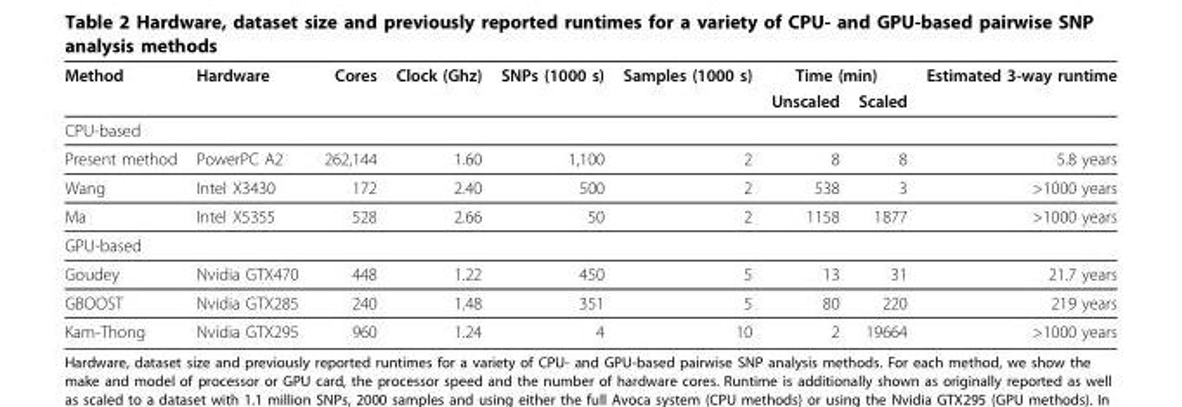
<table><thead><tr><td rowspan="2">Method</td><td rowspan="2">Hardware</td><td rowspan="2">Cores</td><td rowspan="2">Clock (Ghz)</td><td rowspan="2">SNPs (1000 s)</td><td rowspan="2">Samples (1000 s)</td><td colspan="2">Time (min)</td><td rowspan="2">Estimated 3-way runtime</td></tr><tr><td>Unscaled</td><td>Scaled</td></tr></thead><tbody><tr><td colspan="9">CPU-based</td></tr><tr><td>Present method</td><td>PowerPC A2</td><td>262,144</td><td>1.60</td><td>1,100</td><td>2</td><td>8</td><td>8</td><td>5.8 years</td></tr><tr><td>Wang</td><td>Intel X3430</td><td>172</td><td>2.40</td><td>500</td><td>2</td><td>538</td><td>3</td><td>&gt;1000 years</td></tr><tr><td>Ma</td><td>Intel X5355</td><td>528</td><td>2.66</td><td>50</td><td>2</td><td>1158</td><td>1877</td><td>&gt;1000 years</td></tr><tr><td colspan="9">GPU-based</td></tr><tr><td>Goudey</td><td>Nvidia GTX470</td><td>448</td><td>1.22</td><td>450</td><td>5</td><td>13</td><td>31</td><td>21.7 years</td></tr><tr><td>GBOOST</td><td>Nvidia GTX285</td><td>240</td><td>1.48</td><td>351</td><td>5</td><td>80</td><td>220</td><td>219 years</td></tr><tr><td>Kam-Thong</td><td>Nvidia GTX295</td><td>960</td><td>1.24</td><td>4</td><td>10</td><td>2</td><td>19664</td><td>&gt;1000 years</td></tr></tbody></table>